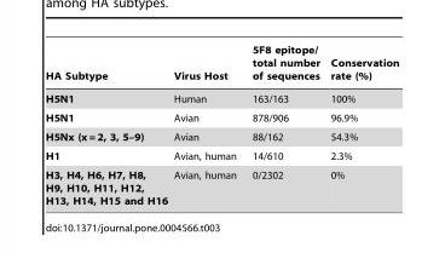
<table><thead><tr><td>HA Subtype</td><td>Virus Host</td><td>5F8 epitope/ total number of sequences</td><td>Conservation rate (%)</td></tr></thead><tbody><tr><td>H5N1</td><td>Human</td><td>163/163</td><td>100%</td></tr><tr><td>H5N1</td><td>Avian</td><td>878/906</td><td>96.9%</td></tr><tr><td>H5Nx (x = 2, 3, 5–9)</td><td>Avian</td><td>88/162</td><td>54.3%</td></tr><tr><td>H1</td><td>Avian, human</td><td>14/610</td><td>2.3%</td></tr><tr><td>H3, H4, H6, H7, H8, H9, H10, H11, H12, H13, H14, H15 and H16</td><td>Avian, human</td><td>0/2302</td><td>0%</td></tr></tbody></table>